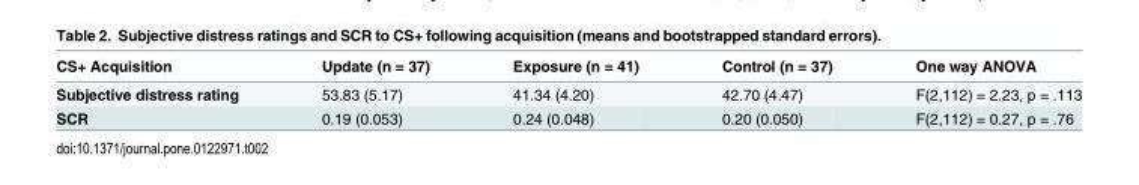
<table><thead><tr><td>CS+ Acquisition</td><td>Update (n = 37)</td><td>Exposure (n = 41)</td><td>Control (n = 37)</td><td>One way ANOVA</td></tr></thead><tbody><tr><td>Subjective distress rating</td><td>53.83 (5.17)</td><td>41.34 (4.20)</td><td>42.70 (4.47)</td><td>F(2,112) = 2.23, p = .113</td></tr><tr><td>SCR</td><td>0.19 (0.053)</td><td>0.24 (0.048)</td><td>0.20 (0.050)</td><td>F(2,112) = 0.27, p = .76</td></tr></tbody></table>